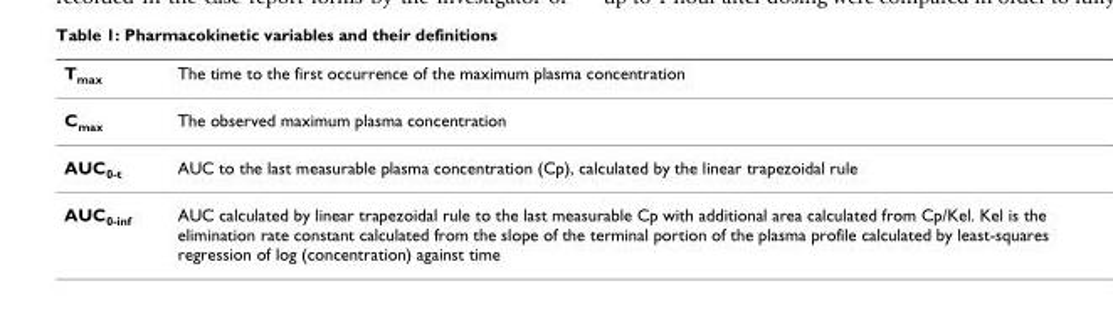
<table><thead><tr><td>T<sub>max</sub></td><td>The time to the first occurrence of the maximum plasma concentration</td></tr></thead><tbody><tr><td>C<sub>max</sub></td><td>The observed maximum plasma concentration</td></tr><tr><td>AUC<sub>0-t</sub></td><td>AUC to the last measurable plasma concentration (Cp), calculated by the linear trapezoidal rule</td></tr><tr><td>AUC<sub>0-inf</sub></td><td>AUC calculated by linear trapezoidal rule to the last measurable Cp with additional area calculated from Cp/Kel. Kel is the elimination rate constant calculated from the slope of the terminal portion of the plasma profile calculated by least-squares regression of log (concentration) against time</td></tr></tbody></table>